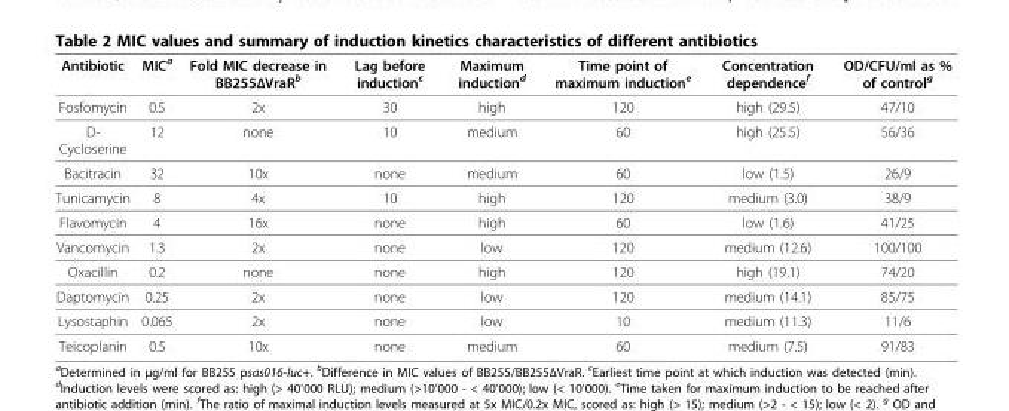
<table><thead><tr><td>Antibiotic</td><td>MIC<sup>a</sup></td><td>Fold MIC decrease in BB255ΔVraR<sup>b</sup></td><td>Lag before induction<sup>c</sup></td><td>Maximum induction<sup>d</sup></td><td>Time point of maximum induction<sup>e</sup></td><td>Concentration dependence<sup>f</sup></td><td>OD/CFU/ml as % of control<sup>g</sup></td></tr></thead><tbody><tr><td>Fosfomycin</td><td>0.5</td><td>2x</td><td>30</td><td>high</td><td>120</td><td>high (29.5)</td><td>47/10</td></tr><tr><td>D- Cycloserine</td><td>12</td><td>none</td><td>10</td><td>medium</td><td>60</td><td>high (25.5)</td><td>56/36</td></tr><tr><td>Bacitracin</td><td>32</td><td>10x</td><td>none</td><td>medium</td><td>60</td><td>low (1.5)</td><td>26/9</td></tr><tr><td>Tunicamycin</td><td>8</td><td>4x</td><td>10</td><td>high</td><td>120</td><td>medium (3.0)</td><td>38/9</td></tr><tr><td>Flavomycin</td><td>4</td><td>16x</td><td>none</td><td>high</td><td>60</td><td>low (1.6)</td><td>41/25</td></tr><tr><td>Vancomycin</td><td>1.3</td><td>2x</td><td>none</td><td>low</td><td>120</td><td>medium (12.6)</td><td>100/100</td></tr><tr><td>Oxacillin</td><td>0.2</td><td>none</td><td>none</td><td>high</td><td>120</td><td>high (19.1)</td><td>74/20</td></tr><tr><td>Daptomycin</td><td>0.25</td><td>2x</td><td>none</td><td>low</td><td>120</td><td>medium (14.1)</td><td>85/75</td></tr><tr><td>Lysostaphin</td><td>0.065</td><td>2x</td><td>none</td><td>low</td><td>10</td><td>medium (11.3)</td><td>11/6</td></tr><tr><td>Teicoplanin</td><td>0.5</td><td>10x</td><td>none</td><td>medium</td><td>60</td><td>medium (7.5)</td><td>91/83</td></tr></tbody></table>